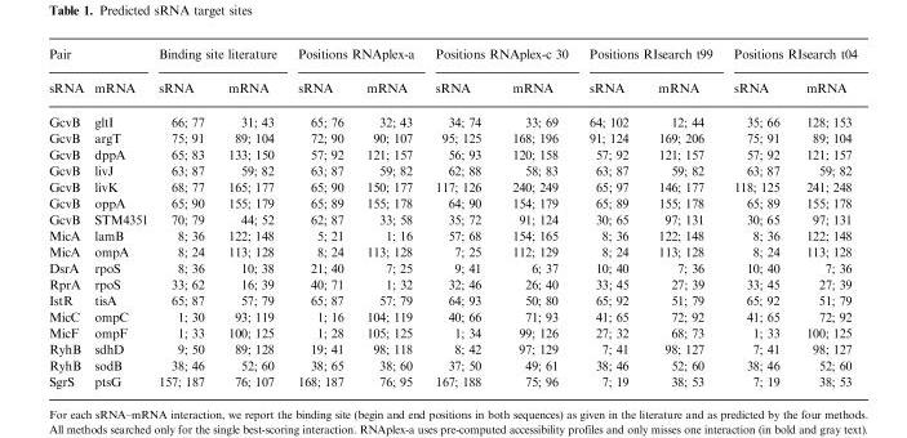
<table><thead><tr><td colspan="2">Pair</td><td colspan="2">Binding site literature</td><td colspan="2">Positions RNAplex-a</td><td colspan="2">Positions RNAplex-c 30</td><td colspan="2">Positions RIsearch t99</td><td colspan="2">Positions RIsearch t04</td></tr><tr><td>sRNA</td><td>mRNA</td><td>sRNA</td><td>mRNA</td><td>sRNA</td><td>mRNA</td><td>sRNA</td><td>mRNA</td><td>sRNA</td><td>mRNA</td><td>sRNA</td><td>mRNA</td></tr></thead><tbody><tr><td>GcvB</td><td>gltI</td><td>66; 77</td><td>31; 43</td><td>65; 76</td><td>32; 43</td><td>34; 74</td><td>33; 69</td><td>64; 102</td><td>12; 44</td><td>35; 66</td><td>128; 153</td></tr><tr><td>GcvB</td><td>argT</td><td>75; 91</td><td>89; 104</td><td>72; 90</td><td>90; 107</td><td>95; 125</td><td>168; 196</td><td>91; 124</td><td>169; 206</td><td>75; 91</td><td>89; 104</td></tr><tr><td>GcvB</td><td>dppA</td><td>65; 83</td><td>133; 150</td><td>57; 92</td><td>121; 157</td><td>56; 93</td><td>120; 158</td><td>57; 92</td><td>121; 157</td><td>57; 92</td><td>121; 157</td></tr><tr><td>GcvB</td><td>livJ</td><td>63; 87</td><td>59; 82</td><td>63; 87</td><td>59; 82</td><td>62; 88</td><td>58; 83</td><td>63; 87</td><td>59; 82</td><td>63; 87</td><td>59; 82</td></tr><tr><td>GcvB</td><td>livK</td><td>68; 77</td><td>165; 177</td><td>65; 90</td><td>150; 177</td><td>117; 126</td><td>240; 249</td><td>65; 97</td><td>146; 177</td><td>118; 125</td><td>241; 248</td></tr><tr><td>GcvB</td><td>oppA</td><td>65; 90</td><td>155; 179</td><td>65; 89</td><td>155; 178</td><td>64; 90</td><td>154; 179</td><td>65; 89</td><td>155; 178</td><td>65; 89</td><td>155; 178</td></tr><tr><td>GcvB</td><td>STM4351</td><td>70; 79</td><td>44; 52</td><td>62; 87</td><td>33; 58</td><td>35; 72</td><td>91; 124</td><td>30; 65</td><td>97; 131</td><td>30; 65</td><td>97; 131</td></tr><tr><td>MicA</td><td>lamB</td><td>8; 36</td><td>122; 148</td><td>5; 21</td><td>1; 16</td><td>57; 68</td><td>154; 165</td><td>8; 36</td><td>122; 148</td><td>8; 36</td><td>122; 148</td></tr><tr><td>MicA</td><td>ompA</td><td>8; 24</td><td>113; 128</td><td>8; 24</td><td>113; 128</td><td>7; 25</td><td>112; 129</td><td>8; 24</td><td>113; 128</td><td>8; 24</td><td>113; 128</td></tr><tr><td>DsrA</td><td>rpoS</td><td>8; 36</td><td>10; 38</td><td>21; 40</td><td>7; 25</td><td>9; 41</td><td>6; 37</td><td>10; 40</td><td>7; 36</td><td>10; 40</td><td>7; 36</td></tr><tr><td>RprA</td><td>rpoS</td><td>33; 62</td><td>16; 39</td><td>40; 71</td><td>1; 32</td><td>32; 46</td><td>26; 40</td><td>33; 45</td><td>27; 39</td><td>33; 45</td><td>27; 39</td></tr><tr><td>IstR</td><td>tisA</td><td>65; 87</td><td>57; 79</td><td>65; 87</td><td>57; 79</td><td>64; 93</td><td>50; 80</td><td>65; 92</td><td>51; 79</td><td>65; 92</td><td>51; 79</td></tr><tr><td>MicC</td><td>ompC</td><td>1; 30</td><td>93; 119</td><td>1; 16</td><td>104; 119</td><td>40; 66</td><td>71; 93</td><td>41; 65</td><td>72; 92</td><td>41; 65</td><td>72; 92</td></tr><tr><td>MicF</td><td>ompF</td><td>1; 33</td><td>100; 125</td><td>1; 28</td><td>105; 125</td><td>1; 34</td><td>99; 126</td><td>27; 32</td><td>68; 73</td><td>1; 33</td><td>100; 125</td></tr><tr><td>RyhB</td><td>sdhD</td><td>9; 50</td><td>89; 128</td><td>19; 41</td><td>98; 118</td><td>8; 42</td><td>97; 129</td><td>7; 41</td><td>98; 127</td><td>7; 41</td><td>98; 127</td></tr><tr><td>RyhB</td><td>sodB</td><td>38; 46</td><td>52; 60</td><td>38; 65</td><td>38; 60</td><td>37; 50</td><td>49; 61</td><td>38; 46</td><td>52; 60</td><td>38; 46</td><td>52; 60</td></tr><tr><td>SgrS</td><td>ptsG</td><td>157; 187</td><td>76; 107</td><td>168; 187</td><td>76; 95</td><td>167; 188</td><td>75; 96</td><td>7; 19</td><td>38; 53</td><td>7; 19</td><td>38; 53</td></tr></tbody></table>